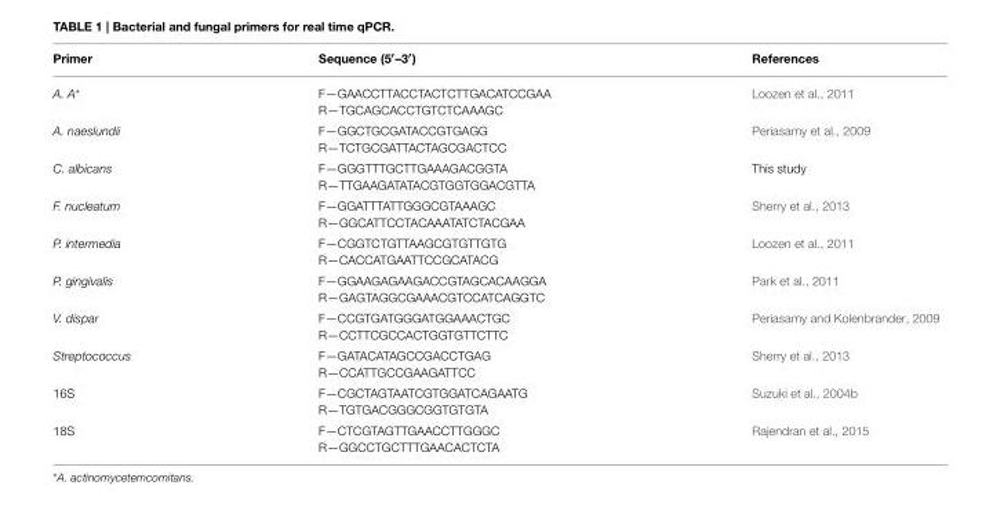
<table><thead><tr><td>Primer</td><td>Sequence (5′–3′)</td><td>References</td></tr></thead><tbody><tr><td>A. A*</td><td>F—GAACCTTACCTACTCTTGACATCCGAA R—TGCAGCACCTGTCTCAAAGC</td><td>Loozen et al., 2011</td></tr><tr><td>A. naeslundii</td><td>F—GGCTGCGATACCGTGAGG R—TCTGCGATTACTAGCGACTCC</td><td>Periasamy et al., 2009</td></tr><tr><td>C. albicans</td><td>F—GGGTTTGCTTGAAAGACGGTA R—TTGAAGATATACGTGGTGGACGTTA</td><td>This study</td></tr><tr><td>F. nucleatum</td><td>F—GGATTTATTGGGCGTAAAGC R—GGCATTCCTACAAATATCTACGAA</td><td>Sherry et al., 2013</td></tr><tr><td>P. intermedia</td><td>F—CGGTCTGTTAAGCGTGTTGTG R—CACCATGAATTCCGCATACG</td><td>Loozen et al., 2011</td></tr><tr><td>P. gingivalis</td><td>F—GGAAGAGAAGACCGTAGCACAAGGA R—GAGTAGGCGAAACGTCCATCAGGTC</td><td>Park et al., 2011</td></tr><tr><td>V. dispar</td><td>F—CCGTGATGGGATGGAAACTGC R—CCTTCGCCACTGGTGTTCTTC</td><td>Periasamy and Kolenbrander, 2009</td></tr><tr><td>Streptococcus</td><td>F—GATACATAGCCGACCTGAG R—CCATTGCCGAAGATTCC</td><td>Sherry et al., 2013</td></tr><tr><td>16S</td><td>F—CGCTAGTAATCGTGGATCAGAATG R—TGTGACGGGCGGTGTGTA</td><td>Suzuki et al., 2004b</td></tr><tr><td>18S</td><td>F—CTCGTAGTTGAACCTTGGGC R—GGCCTGCTTTGAACACTCTA</td><td>Rajendran et al., 2015</td></tr></tbody></table>